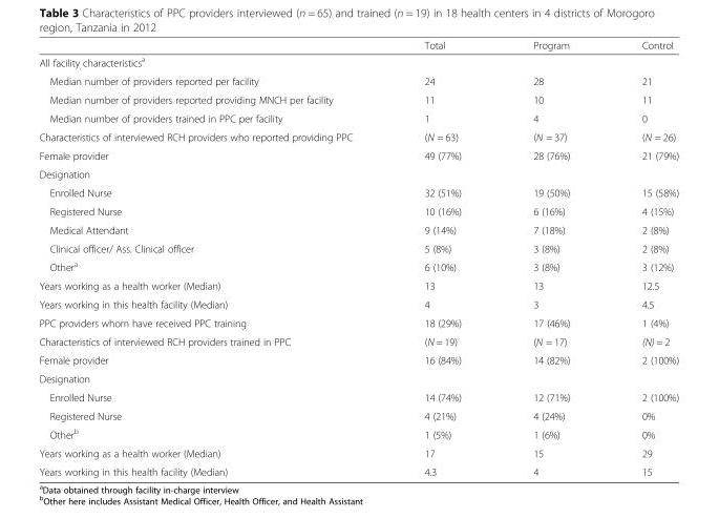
<table><thead><tr><td></td><td>Total</td><td>Program</td><td>Control</td></tr></thead><tbody><tr><td colspan="4">All facility characteristics<sup>a</sup></td></tr><tr><td>Median number of providers reported per facility</td><td>24</td><td>28</td><td>21</td></tr><tr><td>Median number of providers reported providing MNCH per facility</td><td>11</td><td>10</td><td>11</td></tr><tr><td>Median number of providers trained in PPC per facility</td><td>1</td><td>4</td><td>0</td></tr><tr><td>Characteristics of interviewed RCH providers who reported providing PPC</td><td>(N = 63)</td><td>(N = 37)</td><td>(N = 26)</td></tr><tr><td>Female provider</td><td>49 (77%)</td><td>28 (76%)</td><td>21 (79%)</td></tr><tr><td colspan="4">Designation</td></tr><tr><td>Enrolled Nurse</td><td>32 (51%)</td><td>19 (50%)</td><td>15 (58%)</td></tr><tr><td>Registered Nurse</td><td>10 (16%)</td><td>6 (16%)</td><td>4 (15%)</td></tr><tr><td>Medical Attendant</td><td>9 (14%)</td><td>7 (18%)</td><td>2 (8%)</td></tr><tr><td>Clinical officer/ Ass. Clinical officer</td><td>5 (8%)</td><td>3 (8%)</td><td>2 (8%)</td></tr><tr><td>Other<sup>a</sup></td><td>6 (10%)</td><td>3 (8%)</td><td>3 (12%)</td></tr><tr><td>Years working as a health worker (Median)</td><td>13</td><td>13</td><td>12.5</td></tr><tr><td>Years working in this health facility (Median)</td><td>4</td><td>3</td><td>4.5</td></tr><tr><td>PPC providers whom have received PPC training</td><td>18 (29%)</td><td>17 (46%)</td><td>1 (4%)</td></tr><tr><td>Characteristics of interviewed RCH providers trained in PPC</td><td>(N = 19)</td><td>(N = 17)</td><td>(N) = 2</td></tr><tr><td>Female provider</td><td>16 (84%)</td><td>14 (82%)</td><td>2 (100%)</td></tr><tr><td colspan="4">Designation</td></tr><tr><td>Enrolled Nurse</td><td>14 (74%)</td><td>12 (71%)</td><td>2 (100%)</td></tr><tr><td>Registered Nurse</td><td>4 (21%)</td><td>4 (24%)</td><td>0%</td></tr><tr><td>Other<sup>b</sup></td><td>1 (5%)</td><td>1 (6%)</td><td>0%</td></tr><tr><td>Years working as a health worker (Median)</td><td>17</td><td>15</td><td>29</td></tr><tr><td>Years working in this health facility (Median)</td><td>4.3</td><td>4</td><td>15</td></tr></tbody></table>